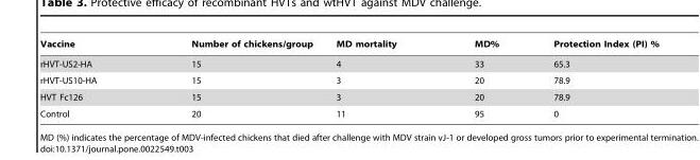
<table><thead><tr><td>Vaccine</td><td>Number of chickens/group</td><td>MD mortality</td><td>MD%</td><td>Protection Index (PI) %</td></tr></thead><tbody><tr><td>rHVT-US2-HA</td><td>15</td><td>4</td><td>33</td><td>65.3</td></tr><tr><td>rHVT-US10-HA</td><td>15</td><td>3</td><td>20</td><td>78.9</td></tr><tr><td>HVT Fc126</td><td>15</td><td>3</td><td>20</td><td>78.9</td></tr><tr><td>Control</td><td>20</td><td>11</td><td>95</td><td>0</td></tr></tbody></table>